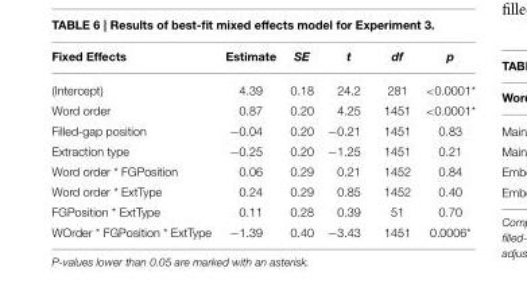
<table><thead><tr><td>Fixed Effects</td><td>Estimate</td><td>SE</td><td>t</td><td>df</td><td>p</td></tr></thead><tbody><tr><td>(Intercept)</td><td>4.39</td><td>0.18</td><td>24.2</td><td>281</td><td>&lt;0.0001*</td></tr><tr><td>Word order</td><td>0.87</td><td>0.20</td><td>4.25</td><td>1451</td><td>&lt;0.0001*</td></tr><tr><td>Filled-gap position</td><td>−0.04</td><td>0.20</td><td>−0.21</td><td>1451</td><td>0.83</td></tr><tr><td>Extraction type</td><td>−0.25</td><td>0.20</td><td>−1.25</td><td>1451</td><td>0.21</td></tr><tr><td>Word order * FGPosition</td><td>0.06</td><td>0.29</td><td>0.21</td><td>1452</td><td>0.84</td></tr><tr><td>Word order * ExtType</td><td>0.24</td><td>0.29</td><td>0.85</td><td>1452</td><td>0.40</td></tr><tr><td>FGPosition * ExtType</td><td>0.11</td><td>0.28</td><td>0.39</td><td>51</td><td>0.70</td></tr><tr><td>WOrder * FGPosition * ExtType</td><td>−1.39</td><td>0.40</td><td>−3.43</td><td>1451</td><td>0.0006*</td></tr></tbody></table>